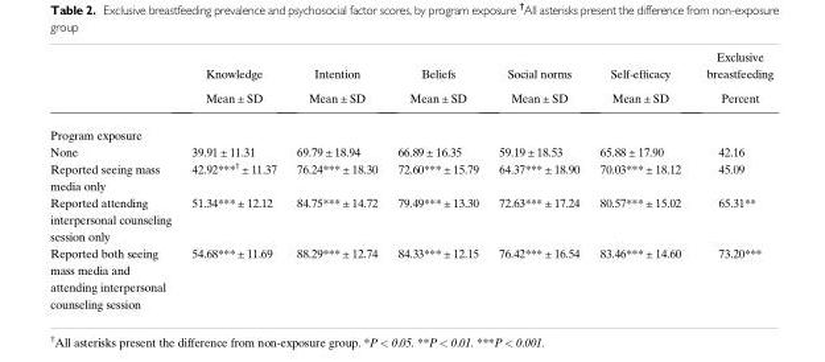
<table><thead><tr><td rowspan="2"></td><td rowspan="2">Knowledge Mean ± SD</td><td rowspan="2">Intention Mean ± SD</td><td rowspan="2">Beliefs Mean ± SD</td><td rowspan="2">Social norms Mean ± SD</td><td rowspan="2">Self-efficacy Mean ± SD</td><td rowspan="2">Exclusive breastfeeding Percent</td></tr><tr></tr></thead><tbody><tr><td colspan="7">Program exposure</td></tr><tr><td>None</td><td>39.91 ± 11.31</td><td>69.79 ± 18.94</td><td>66.89 ± 16.35</td><td>59.19 ± 18.53</td><td>65.88 ± 17.90</td><td>42.16</td></tr><tr><td>Reported seeing mass media only</td><td>42.92***† ± 11.37</td><td>76.24*** ± 18.30</td><td>72.60*** ± 15.79</td><td>64.37*** ± 18.90</td><td>70.03*** ± 18.12</td><td>45.09</td></tr><tr><td>Reported attending interpersonal counseling session only</td><td>51.34*** ± 12.12</td><td>84.75*** ± 14.72</td><td>79.49*** ± 13.30</td><td>72.63*** ± 17.24</td><td>80.57*** ± 15.02</td><td>65.31**</td></tr><tr><td>Reported both seeing mass media and attending interpersonal counseling session</td><td>54.68*** ± 11.69</td><td>88.29*** ± 12.74</td><td>84.33*** ± 12.15</td><td>76.42*** ± 16.54</td><td>83.46*** ± 14.60</td><td>73.20***</td></tr></tbody></table>